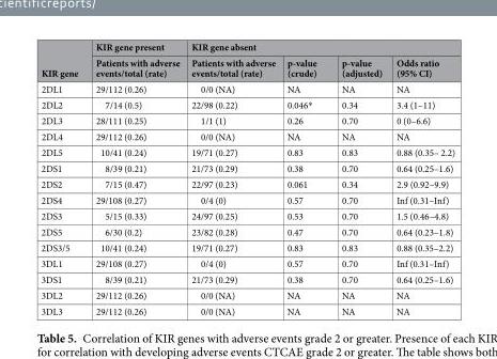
<table><thead><tr><td rowspan="2">KIR gene</td><td rowspan="2">KIR gene present Patients with adverse events/total (rate)</td><td colspan="4">KIR gene absent</td></tr><tr><td>Patients with adverse events/total (rate)</td><td>p-value (crude)</td><td>p-value (adjusted)</td><td>Odds ratio (95% CI)</td></tr></thead><tbody><tr><td>2DL1</td><td>29/112 (0.26)</td><td>0/0 (NA)</td><td>NA</td><td>NA</td><td>NA</td></tr><tr><td>2DL2</td><td>7/14 (0.5)</td><td>22/98 (0.22)</td><td>0.046*</td><td>0.34</td><td>3.4 (1–11)</td></tr><tr><td>2DL3</td><td>28/111 (0.25)</td><td>1/1 (1)</td><td>0.26</td><td>0.70</td><td>0 (0–6.6)</td></tr><tr><td>2DL4</td><td>29/112 (0.26)</td><td>0/0 (NA)</td><td>NA</td><td>NA</td><td>NA</td></tr><tr><td>2DL5</td><td>10/41 (0.24)</td><td>19/71 (0.27)</td><td>0.83</td><td>0.83</td><td>0.88 (0.35– 2.2)</td></tr><tr><td>2DS1</td><td>8/39 (0.21)</td><td>21/73 (0.29)</td><td>0.38</td><td>0.70</td><td>0.64 (0.25–1.6)</td></tr><tr><td>2DS2</td><td>7/15 (0.47)</td><td>22/97 (0.23)</td><td>0.061</td><td>0.34</td><td>2.9 (0.92–9.9)</td></tr><tr><td>2DS4</td><td>29/108 (0.27)</td><td>0/4 (0)</td><td>0.57</td><td>0.70</td><td>Inf (0.31–Inf)</td></tr><tr><td>2DS3</td><td>5/15 (0.33)</td><td>24/97 (0.25)</td><td>0.53</td><td>0.70</td><td>1.5 (0.46–4.8)</td></tr><tr><td>2DS5</td><td>6/30 (0.2)</td><td>23/82 (0.28)</td><td>0.47</td><td>0.70</td><td>0.64 (0.23–1.8)</td></tr><tr><td>2DS3/5</td><td>10/41 (0.24)</td><td>19/71 (0.27)</td><td>0.83</td><td>0.83</td><td>0.88 (0.35–2.2)</td></tr><tr><td>3DL1</td><td>29/108 (0.27)</td><td>0/4 (0)</td><td>0.57</td><td>0.70</td><td>Inf (0.31–Inf)</td></tr><tr><td>3DS1</td><td>8/39 (0.21)</td><td>21/73 (0.29)</td><td>0.38</td><td>0.70</td><td>0.64 (0.25–1.6)</td></tr><tr><td>3DL2</td><td>29/112 (0.26)</td><td>0/0 (NA)</td><td>NA</td><td>NA</td><td>NA</td></tr><tr><td>3DL3</td><td>29/112 (0.26)</td><td>0/0 (NA)</td><td>NA</td><td>NA</td><td>NA</td></tr></tbody></table>